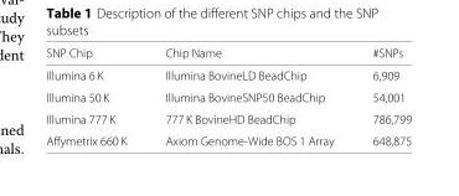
<table><thead><tr><td>SNP Chip</td><td>Chip Name</td><td>#SNPs</td></tr></thead><tbody><tr><td>Illumina 6 K</td><td>Illumina BovineLD BeadChip</td><td>6,909</td></tr><tr><td>Illumina 50 K</td><td>Illumina BovineSNP50 BeadChip</td><td>54,001</td></tr><tr><td>Illumina 777 K</td><td>777 K BovineHD BeadChip</td><td>786,799</td></tr><tr><td>Affymetrix 660 K</td><td>Axiom Genome-Wide BOS 1 Array</td><td>648,875</td></tr></tbody></table>